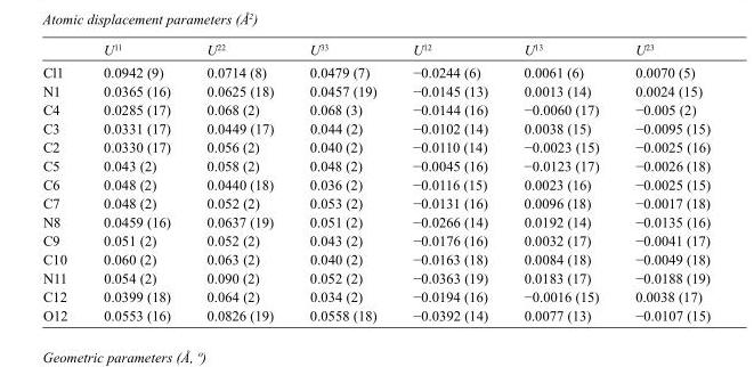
<table><thead><tr><td></td><td>U<sup>11</sup></td><td>U<sup>22</sup></td><td>U<sup>33</sup></td><td>U<sup>12</sup></td><td>U<sup>13</sup></td><td>U<sup>23</sup></td></tr></thead><tbody><tr><td>Cl1</td><td>0.0942 (9)</td><td>0.0714 (8)</td><td>0.0479 (7)</td><td>−0.0244 (6)</td><td>0.0061 (6)</td><td>0.0070 (5)</td></tr><tr><td>N1</td><td>0.0365 (16)</td><td>0.0625 (18)</td><td>0.0457 (19)</td><td>−0.0145 (13)</td><td>0.0013 (14)</td><td>0.0024 (15)</td></tr><tr><td>C4</td><td>0.0285 (17)</td><td>0.068 (2)</td><td>0.068 (3)</td><td>−0.0144 (16)</td><td>−0.0060 (17)</td><td>−0.005 (2)</td></tr><tr><td>C3</td><td>0.0331 (17)</td><td>0.0449 (17)</td><td>0.044 (2)</td><td>−0.0102 (14)</td><td>0.0038 (15)</td><td>−0.0095 (15)</td></tr><tr><td>C2</td><td>0.0330 (17)</td><td>0.056 (2)</td><td>0.040 (2)</td><td>−0.0110 (14)</td><td>−0.0023 (15)</td><td>−0.0025 (16)</td></tr><tr><td>C5</td><td>0.043 (2)</td><td>0.058 (2)</td><td>0.048 (2)</td><td>−0.0045 (16)</td><td>−0.0123 (17)</td><td>−0.0026 (18)</td></tr><tr><td>C6</td><td>0.048 (2)</td><td>0.0440 (18)</td><td>0.036 (2)</td><td>−0.0116 (15)</td><td>0.0023 (16)</td><td>−0.0025 (15)</td></tr><tr><td>C7</td><td>0.048 (2)</td><td>0.052 (2)</td><td>0.053 (2)</td><td>−0.0131 (16)</td><td>0.0096 (18)</td><td>−0.0017 (18)</td></tr><tr><td>N8</td><td>0.0459 (16)</td><td>0.0637 (19)</td><td>0.051 (2)</td><td>−0.0266 (14)</td><td>0.0192 (14)</td><td>−0.0135 (16)</td></tr><tr><td>C9</td><td>0.051 (2)</td><td>0.052 (2)</td><td>0.043 (2)</td><td>−0.0176 (16)</td><td>0.0032 (17)</td><td>−0.0041 (17)</td></tr><tr><td>C10</td><td>0.060 (2)</td><td>0.063 (2)</td><td>0.040 (2)</td><td>−0.0163 (18)</td><td>0.0084 (18)</td><td>−0.0049 (18)</td></tr><tr><td>N11</td><td>0.054 (2)</td><td>0.090 (2)</td><td>0.052 (2)</td><td>−0.0363 (19)</td><td>0.0183 (17)</td><td>−0.0188 (19)</td></tr><tr><td>C12</td><td>0.0399 (18)</td><td>0.064 (2)</td><td>0.034 (2)</td><td>−0.0194 (16)</td><td>−0.0016 (15)</td><td>0.0038 (17)</td></tr><tr><td>O12</td><td>0.0553 (16)</td><td>0.0826 (19)</td><td>0.0558 (18)</td><td>−0.0392 (14)</td><td>0.0077 (13)</td><td>−0.0107 (15)</td></tr></tbody></table>